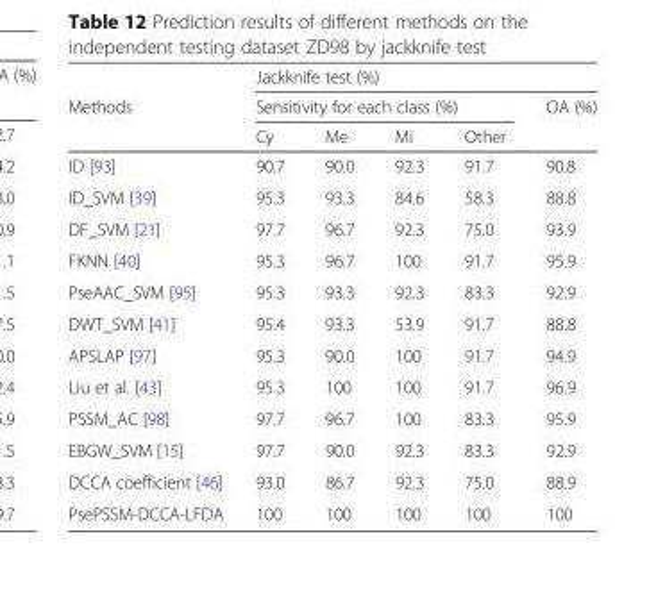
<table><thead><tr><td rowspan="3">Methods</td><td colspan="5">Jackknife test (%)</td></tr><tr><td colspan="4">Sensitivity for each class (%)</td><td rowspan="2">OA (%)</td></tr><tr><td>Cy</td><td>Me</td><td>Mi</td><td>Other</td></tr></thead><tbody><tr><td>ID [93]</td><td>90.7</td><td>90.0</td><td>92.3</td><td>91.7</td><td>90.8</td></tr><tr><td>ID_SVM [39]</td><td>95.3</td><td>93.3</td><td>84.6</td><td>58.3</td><td>88.8</td></tr><tr><td>DF_SVM [21]</td><td>97.7</td><td>96.7</td><td>92.3</td><td>75.0</td><td>93.9</td></tr><tr><td>FKNN [40]</td><td>95.3</td><td>96.7</td><td>100</td><td>91.7</td><td>95.9</td></tr><tr><td>PseAAC_SVM [95]</td><td>95.3</td><td>93.3</td><td>92.3</td><td>83.3</td><td>92.9</td></tr><tr><td>DWT_SVM [41]</td><td>95.4</td><td>93.3</td><td>53.9</td><td>91.7</td><td>88.8</td></tr><tr><td>APSLAP [97]</td><td>95.3</td><td>90.0</td><td>100</td><td>91.7</td><td>94.9</td></tr><tr><td>Liu et al. [43]</td><td>95.3</td><td>100</td><td>100</td><td>91.7</td><td>96.9</td></tr><tr><td>PSSM_AC [98]</td><td>97.7</td><td>96.7</td><td>100</td><td>83.3</td><td>95.9</td></tr><tr><td>EBGW_SVM [15]</td><td>97.7</td><td>90.0</td><td>92.3</td><td>83.3</td><td>92.9</td></tr><tr><td>DCCA coefficient [46]</td><td>93.0</td><td>86.7</td><td>92.3</td><td>75.0</td><td>88.9</td></tr><tr><td>PsePSSM-DCCA-LFDA</td><td>100</td><td>100</td><td>100</td><td>100</td><td>100</td></tr></tbody></table>